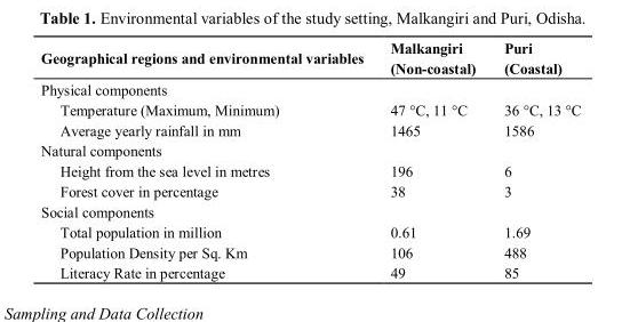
<table><thead><tr><td>Geographical regions and environmental variables</td><td>Malkangiri (Non-coastal)</td><td>Puri (Coastal)</td></tr></thead><tbody><tr><td colspan="3">Physical components</td></tr><tr><td>Temperature (Maximum, Minimum)</td><td>47 °C, 11 °C</td><td>36 °C, 13 °C</td></tr><tr><td>Average yearly rainfall in mm</td><td>1465</td><td>1586</td></tr><tr><td colspan="3">Natural components</td></tr><tr><td>Height from the sea level in metres</td><td>196</td><td>6</td></tr><tr><td>Forest cover in percentage</td><td>38</td><td>3</td></tr><tr><td colspan="3">Social components</td></tr><tr><td>Total population in million</td><td>0.61</td><td>1.69</td></tr><tr><td>Population Density per Sq. Km</td><td>106</td><td>488</td></tr><tr><td>Literacy Rate in percentage</td><td>49</td><td>85</td></tr></tbody></table>